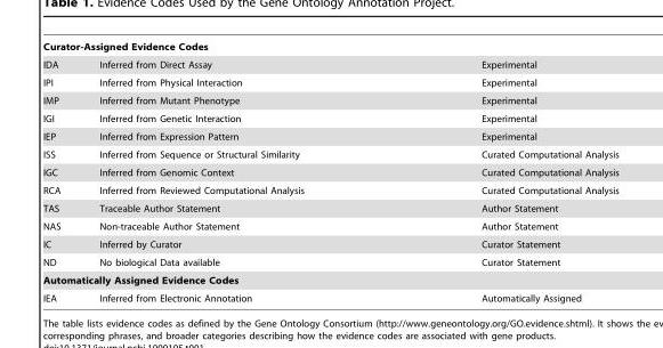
<table><tbody><tr><td colspan="3">Curator-Assigned Evidence Codes</td></tr><tr><td>IDA</td><td>Inferred from Direct Assay</td><td>Experimental</td></tr><tr><td>IPI</td><td>Inferred from Physical Interaction</td><td>Experimental</td></tr><tr><td>IMP</td><td>Inferred from Mutant Phenotype</td><td>Experimental</td></tr><tr><td>IGI</td><td>Inferred from Genetic Interaction</td><td>Experimental</td></tr><tr><td>IEP</td><td>Inferred from Expression Pattern</td><td>Experimental</td></tr><tr><td>ISS</td><td>Inferred from Sequence or Structural Similarity</td><td>Curated Computational Analysis</td></tr><tr><td>IGC</td><td>Inferred from Genomic Context</td><td>Curated Computational Analysis</td></tr><tr><td>RCA</td><td>Inferred from Reviewed Computational Analysis</td><td>Curated Computational Analysis</td></tr><tr><td>TAS</td><td>Traceable Author Statement</td><td>Author Statement</td></tr><tr><td>NAS</td><td>Non-traceable Author Statement</td><td>Author Statement</td></tr><tr><td>IC</td><td>Inferred by Curator</td><td>Curator Statement</td></tr><tr><td>ND</td><td>No biological Data available</td><td>Curator Statement</td></tr><tr><td colspan="3">Automatically Assigned Evidence Codes</td></tr><tr><td>IEA</td><td>Inferred from Electronic Annotation</td><td>Automatically Assigned</td></tr></tbody></table>